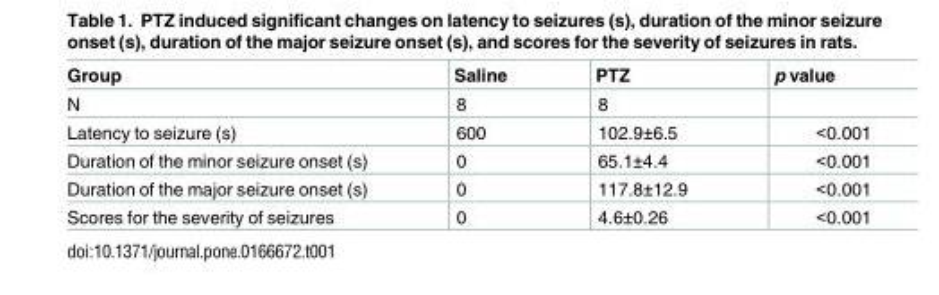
<table><thead><tr><td>Group</td><td>Saline</td><td>PTZ</td><td>p value</td></tr></thead><tbody><tr><td>N</td><td>8</td><td>8</td><td></td></tr><tr><td>Latency to seizure (s)</td><td>600</td><td>102.9±6.5</td><td>&lt;0.001</td></tr><tr><td>Duration of the minor seizure onset (s)</td><td>0</td><td>65.1±4.4</td><td>&lt;0.001</td></tr><tr><td>Duration of the major seizure onset (s)</td><td>0</td><td>117.8±12.9</td><td>&lt;0.001</td></tr><tr><td>Scores for the severity of seizures</td><td>0</td><td>4.6±0.26</td><td>&lt;0.001</td></tr></tbody></table>